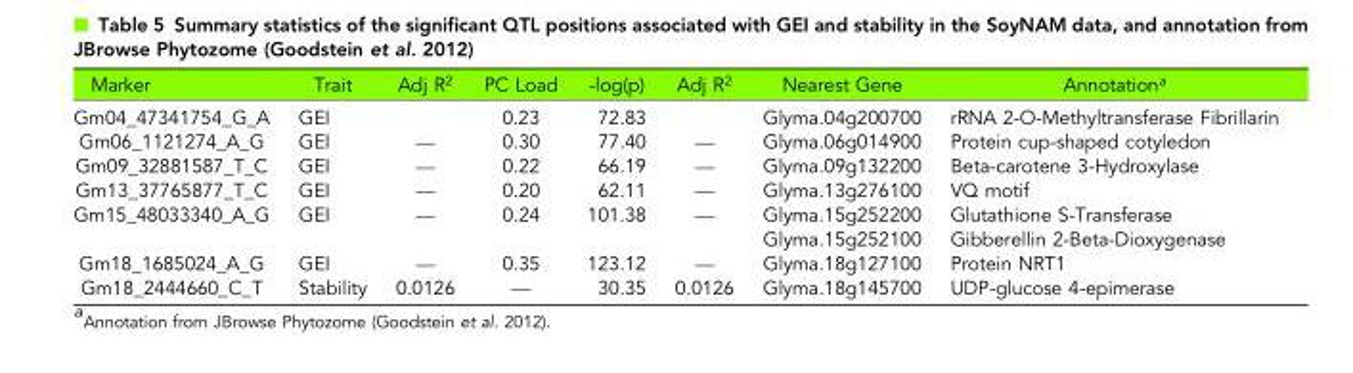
<table><thead><tr><td>Marker</td><td>Trait</td><td>Adj R<sup>2</sup></td><td>PC Load</td><td>-log(p)</td><td>Adj R<sup>2</sup></td><td>Nearest Gene</td><td>Annotation<sup>a</sup></td></tr></thead><tbody><tr><td>Gm04_47341754_G_A</td><td>GEI</td><td></td><td>0.23</td><td>72.83</td><td></td><td>Glyma.04g200700</td><td>rRNA 2-O-Methyltransferase Fibrillarin</td></tr><tr><td>Gm06_1121274_A_G</td><td>GEI</td><td>—</td><td>0.30</td><td>77.40</td><td>—</td><td>Glyma.06g014900</td><td>Protein cup-shaped cotyledon</td></tr><tr><td>Gm09_32881587_T_C</td><td>GEI</td><td>—</td><td>0.22</td><td>66.19</td><td>—</td><td>Glyma.09g132200</td><td>Beta-carotene 3-Hydroxylase</td></tr><tr><td>Gm13_37765877_T_C</td><td>GEI</td><td>—</td><td>0.20</td><td>62.11</td><td>—</td><td>Glyma.13g276100</td><td>VQ motif</td></tr><tr><td rowspan="2">Gm15_48033340_A_G</td><td rowspan="2">GEI</td><td rowspan="2">—</td><td rowspan="2">0.24</td><td rowspan="2">101.38</td><td rowspan="2">—</td><td>Glyma.15g252200</td><td>Glutathione S-Transferase</td></tr><tr><td>Glyma.15g252100</td><td>Gibberellin 2-Beta-Dioxygenase</td></tr><tr><td>Gm18_1685024_A_G</td><td>GEI</td><td>—</td><td>0.35</td><td>123.12</td><td>—</td><td>Glyma.18g127100</td><td>Protein NRT1</td></tr><tr><td>Gm18_2444660_C_T</td><td>Stability</td><td>0.0126</td><td>—</td><td>30.35</td><td>0.0126</td><td>Glyma.18g145700</td><td>UDP-glucose 4-epimerase</td></tr></tbody></table>